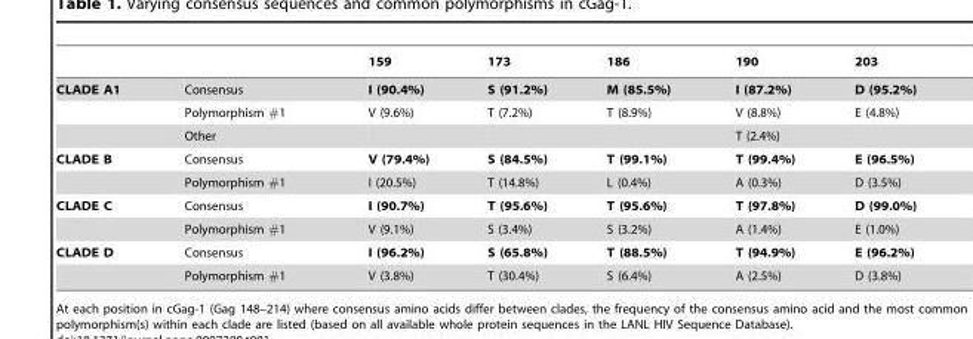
<table><thead><tr><td></td><td></td><td>159</td><td>173</td><td>186</td><td>190</td><td>203</td></tr></thead><tbody><tr><td rowspan="3">CLADE A1</td><td>Consensus</td><td>I (90.4%)</td><td>S (91.2%)</td><td>M (85.5%)</td><td>I (87.2%)</td><td>D (95.2%)</td></tr><tr><td>Polymorphism #1</td><td>V (9.6%)</td><td>T (7.2%)</td><td>T (8.9%)</td><td>V (8.8%)</td><td>E (4.8%)</td></tr><tr><td>Other</td><td></td><td></td><td></td><td>T (2.4%)</td><td></td></tr><tr><td rowspan="2">CLADE B</td><td>Consensus</td><td>V (79.4%)</td><td>S (84.5%)</td><td>T (99.1%)</td><td>T (99.4%)</td><td>E (96.5%)</td></tr><tr><td>Polymorphism #1</td><td>I (20.5%)</td><td>T (14.8%)</td><td>L (0.4%)</td><td>A (0.3%)</td><td>D (3.5%)</td></tr><tr><td rowspan="2">CLADE C</td><td>Consensus</td><td>I (90.7%)</td><td>T (95.6%)</td><td>T (95.6%)</td><td>T (97.8%)</td><td>D (99.0%)</td></tr><tr><td>Polymorphism #1</td><td>V (9.1%)</td><td>S (3.4%)</td><td>S (3.2%)</td><td>A (1.4%)</td><td>E (1.0%)</td></tr><tr><td rowspan="2">CLADE D</td><td>Consensus</td><td>I (96.2%)</td><td>S (65.8%)</td><td>T (88.5%)</td><td>T (94.9%)</td><td>E (96.2%)</td></tr><tr><td>Polymorphism #1</td><td>V (3.8%)</td><td>T (30.4%)</td><td>S (6.4%)</td><td>A (2.5%)</td><td>D (3.8%)</td></tr></tbody></table>